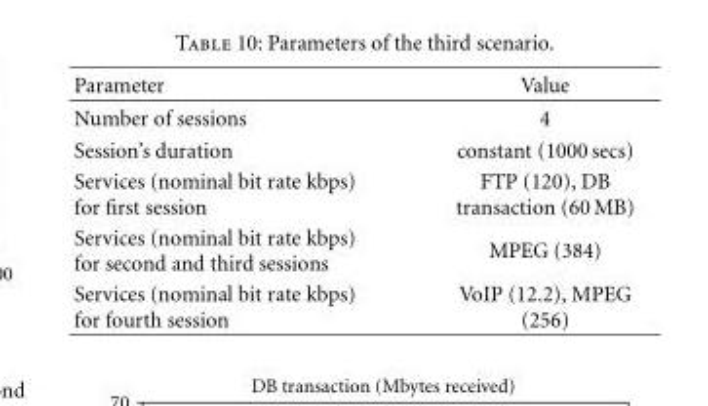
<table><thead><tr><td>Parameter</td><td>Value</td></tr></thead><tbody><tr><td>Number of sessions</td><td>4</td></tr><tr><td>Session’s duration</td><td>constant (1000 secs)</td></tr><tr><td>Services (nominal bit rate kbps) for first session</td><td>FTP (120), DB transaction (60 MB)</td></tr><tr><td>Services (nominal bit rate kbps) for second and third sessions</td><td>MPEG (384)</td></tr><tr><td>Services (nominal bit rate kbps) for fourth session</td><td>VoIP (12.2), MPEG (256)</td></tr></tbody></table>